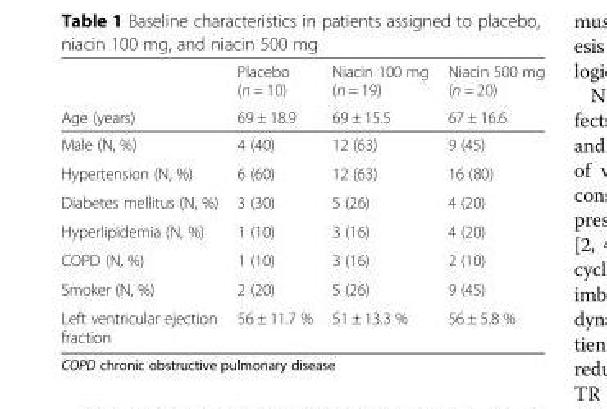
<table><thead><tr><td rowspan="2">Age (years)</td><td rowspan="2">Placebo (n = 10) 69 ± 18.9</td><td rowspan="2">Niacin 100 mg (n = 19) 69 ± 15.5</td><td rowspan="2">Niacin 500 mg (n = 20) 67 ± 16.6</td></tr><tr></tr></thead><tbody><tr><td>Male (N, %)</td><td>4 (40)</td><td>12 (63)</td><td>9 (45)</td></tr><tr><td>Hypertension (N, %)</td><td>6 (60)</td><td>12 (63)</td><td>16 (80)</td></tr><tr><td>Diabetes mellitus (N, %)</td><td>3 (30)</td><td>5 (26)</td><td>4 (20)</td></tr><tr><td>Hyperlipidemia (N, %)</td><td>1 (10)</td><td>3 (16)</td><td>4 (20)</td></tr><tr><td>COPD (N, %)</td><td>1 (10)</td><td>3 (16)</td><td>2 (10)</td></tr><tr><td>Smoker (N, %)</td><td>2 (20)</td><td>5 (26)</td><td>9 (45)</td></tr><tr><td>Left ventricular ejection fraction</td><td>56 ± 11.7 %</td><td>51 ± 13.3 %</td><td>56 ± 5.8 %</td></tr></tbody></table>